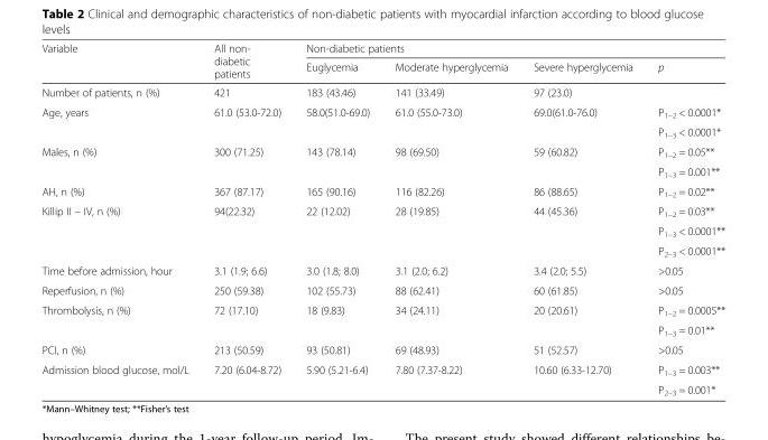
<table><thead><tr><td rowspan="2">Variable</td><td rowspan="2">All non- diabetic patients</td><td colspan="4">Non-diabetic patients</td></tr><tr><td>Euglycemia</td><td>Moderate hyperglycemia</td><td>Severe hyperglycemia</td><td>p</td></tr></thead><tbody><tr><td>Number of patients, n (%)</td><td>421</td><td>183 (43.46)</td><td>141 (33.49)</td><td>97 (23.0)</td><td></td></tr><tr><td rowspan="2">Age, years</td><td rowspan="2">61.0 (53.0-72.0)</td><td rowspan="2">58.0(51.0-69.0)</td><td rowspan="2">61.0 (55.0-73.0)</td><td rowspan="2">69.0(61.0-76.0)</td><td>P<sub>1–2</sub> &lt; 0.0001*</td></tr><tr><td>P<sub>1–3</sub> &lt; 0.0001*</td></tr><tr><td rowspan="2">Males, n (%)</td><td rowspan="2">300 (71.25)</td><td rowspan="2">143 (78.14)</td><td rowspan="2">98 (69.50)</td><td rowspan="2">59 (60.82)</td><td>P<sub>1–2</sub> = 0.05**</td></tr><tr><td>P<sub>1–3</sub> = 0.001**</td></tr><tr><td>AH, n (%)</td><td>367 (87.17)</td><td>165 (90.16)</td><td>116 (82.26)</td><td>86 (88.65)</td><td>P<sub>1–2</sub> = 0.02**</td></tr><tr><td rowspan="3">Killip II – IV, n (%)</td><td rowspan="3">94(22.32)</td><td rowspan="3">22 (12.02)</td><td rowspan="3">28 (19.85)</td><td rowspan="3">44 (45.36)</td><td>P<sub>1–2</sub> = 0.03**</td></tr><tr><td>P<sub>1–3</sub> &lt; 0.0001**</td></tr><tr><td>P<sub>2–3</sub> &lt; 0.0001**</td></tr><tr><td>Time before admission, hour</td><td>3.1 (1.9; 6.6)</td><td>3.0 (1.8; 8.0)</td><td>3.1 (2.0; 6.2)</td><td>3.4 (2.0; 5.5)</td><td>&gt;0.05</td></tr><tr><td>Reperfusion, n (%)</td><td>250 (59.38)</td><td>102 (55.73)</td><td>88 (62.41)</td><td>60 (61.85)</td><td>&gt;0.05</td></tr><tr><td rowspan="2">Thrombolysis, n (%)</td><td rowspan="2">72 (17.10)</td><td rowspan="2">18 (9.83)</td><td rowspan="2">34 (24.11)</td><td rowspan="2">20 (20.61)</td><td>P<sub>1–2</sub> = 0.0005**</td></tr><tr><td>P<sub>1–3</sub> = 0.01**</td></tr><tr><td>PCI, n (%)</td><td>213 (50.59)</td><td>93 (50.81)</td><td>69 (48.93)</td><td>51 (52.57)</td><td>&gt;0.05</td></tr><tr><td rowspan="2">Admission blood glucose, mol/L</td><td rowspan="2">7.20 (6.04-8.72)</td><td rowspan="2">5.90 (5.21-6.4)</td><td rowspan="2">7.80 (7.37-8.22)</td><td rowspan="2">10.60 (6.33-12.70)</td><td>P<sub>1–3</sub> = 0.003**</td></tr><tr><td>P<sub>2–3</sub> = 0.001*</td></tr></tbody></table>